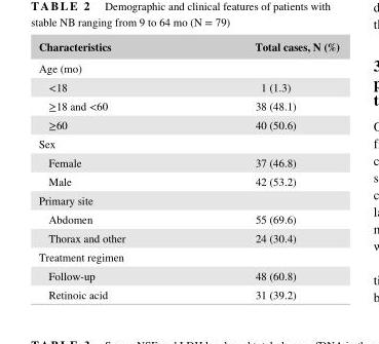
<table><thead><tr><td>Characteristics</td><td>Total cases, N (%)</td></tr></thead><tbody><tr><td colspan="2">Age (mo)</td></tr><tr><td>&lt;18</td><td>1 (1.3)</td></tr><tr><td>≥18 and &lt;60</td><td>38 (48.1)</td></tr><tr><td>≥60</td><td>40 (50.6)</td></tr><tr><td colspan="2">Sex</td></tr><tr><td>Female</td><td>37 (46.8)</td></tr><tr><td>Male</td><td>42 (53.2)</td></tr><tr><td colspan="2">Primary site</td></tr><tr><td>Abdomen</td><td>55 (69.6)</td></tr><tr><td>Thorax and other</td><td>24 (30.4)</td></tr><tr><td colspan="2">Treatment regimen</td></tr><tr><td>Follow- up</td><td>48 (60.8)</td></tr><tr><td>Retinoic acid</td><td>31 (39.2)</td></tr></tbody></table>